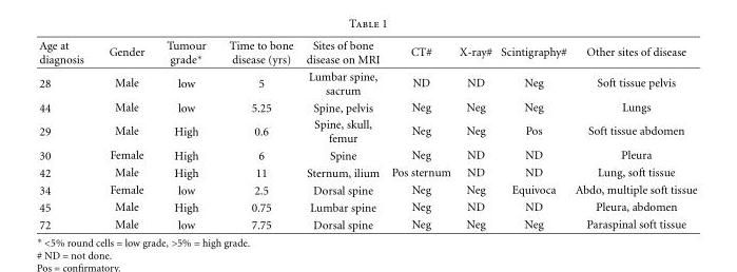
<table><thead><tr><td>Age at diagnosis</td><td>Gender</td><td>Tumour grade∗</td><td>Time to bone disease (yrs)</td><td>Sites of bone disease on MRI</td><td>CT#</td><td>X-ray#</td><td>Scintigraphy#</td><td>Other sites of disease</td></tr></thead><tbody><tr><td>28</td><td>Male</td><td>low</td><td>5</td><td>Lumbar spine, sacrum</td><td>ND</td><td>ND</td><td>Neg</td><td>Soft tissue pelvis</td></tr><tr><td>44</td><td>Male</td><td>low</td><td>5.25</td><td>Spine, pelvis</td><td>Neg</td><td>Neg</td><td>Neg</td><td>Lungs</td></tr><tr><td>29</td><td>Male</td><td>High</td><td>0.6</td><td>Spine, skull, femur</td><td>Neg</td><td>Neg</td><td>Pos</td><td>Soft tissue abdomen</td></tr><tr><td>30</td><td>Female</td><td>High</td><td>6</td><td>Spine</td><td>Neg</td><td>ND</td><td>ND</td><td>Pleura</td></tr><tr><td>42</td><td>Male</td><td>High</td><td>11</td><td>Sternum, ilium</td><td>Pos sternum</td><td>ND</td><td>ND</td><td>Lung, soft tissue</td></tr><tr><td>34</td><td>Female</td><td>low</td><td>2.5</td><td>Dorsal spine</td><td>Neg</td><td>Neg</td><td>Equivoca</td><td>Abdo, multiple soft tissue</td></tr><tr><td>45</td><td>Male</td><td>High</td><td>0.75</td><td>Lumbar spine</td><td>Neg</td><td>ND</td><td>ND</td><td>Pleura, abdomen</td></tr><tr><td>72</td><td>Male</td><td>low</td><td>7.75</td><td>Dorsal spine</td><td>Neg</td><td>Neg</td><td>Neg</td><td>Paraspinal soft tissue</td></tr></tbody></table>